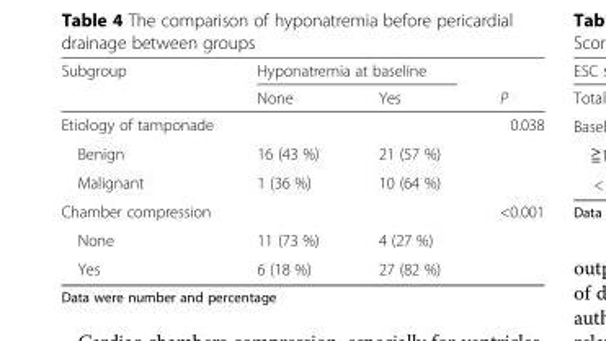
<table><thead><tr><td rowspan="2">Subgroup</td><td colspan="2">Hyponatremia at baseline</td><td rowspan="2">P</td></tr><tr><td>None</td><td>Yes</td></tr></thead><tbody><tr><td>Etiology of tamponade</td><td></td><td></td><td>0.038</td></tr><tr><td>Benign</td><td>16 (43 %)</td><td>21 (57 %)</td><td></td></tr><tr><td>Malignant</td><td>1 (36 %)</td><td>10 (64 %)</td><td></td></tr><tr><td>Chamber compression</td><td></td><td></td><td>&lt;0.001</td></tr><tr><td>None</td><td>11 (73 %)</td><td>4 (27 %)</td><td></td></tr><tr><td>Yes</td><td>6 (18 %)</td><td>27 (82 %)</td><td></td></tr></tbody></table>